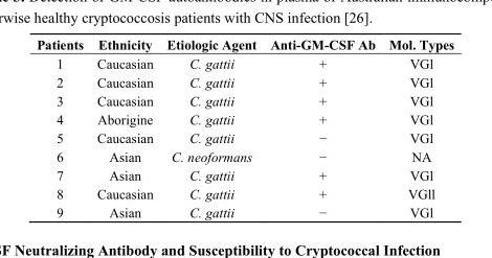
<table><thead><tr><td>Patients</td><td>Ethnicity</td><td>Etiologic Agent</td><td>Anti-GM-CSF Ab</td><td>Mol. Types</td></tr></thead><tbody><tr><td>1</td><td>Caucasian</td><td>C. gattii</td><td>+</td><td>VGl</td></tr><tr><td>2</td><td>Caucasian</td><td>C. gattii</td><td>+</td><td>VGl</td></tr><tr><td>3</td><td>Caucasian</td><td>C. gattii</td><td>+</td><td>VGl</td></tr><tr><td>4</td><td>Aborigine</td><td>C. gattii</td><td>+</td><td>VGl</td></tr><tr><td>5</td><td>Caucasian</td><td>C. gattii</td><td>−</td><td>VGl</td></tr><tr><td>6</td><td>Asian</td><td>C. neoformans</td><td>−</td><td>NA</td></tr><tr><td>7</td><td>Asian</td><td>C. gattii</td><td>+</td><td>VGl</td></tr><tr><td>8</td><td>Caucasian</td><td>C. gattii</td><td>+</td><td>VGll</td></tr><tr><td>9</td><td>Asian</td><td>C. gattii</td><td>−</td><td>VGl</td></tr></tbody></table>